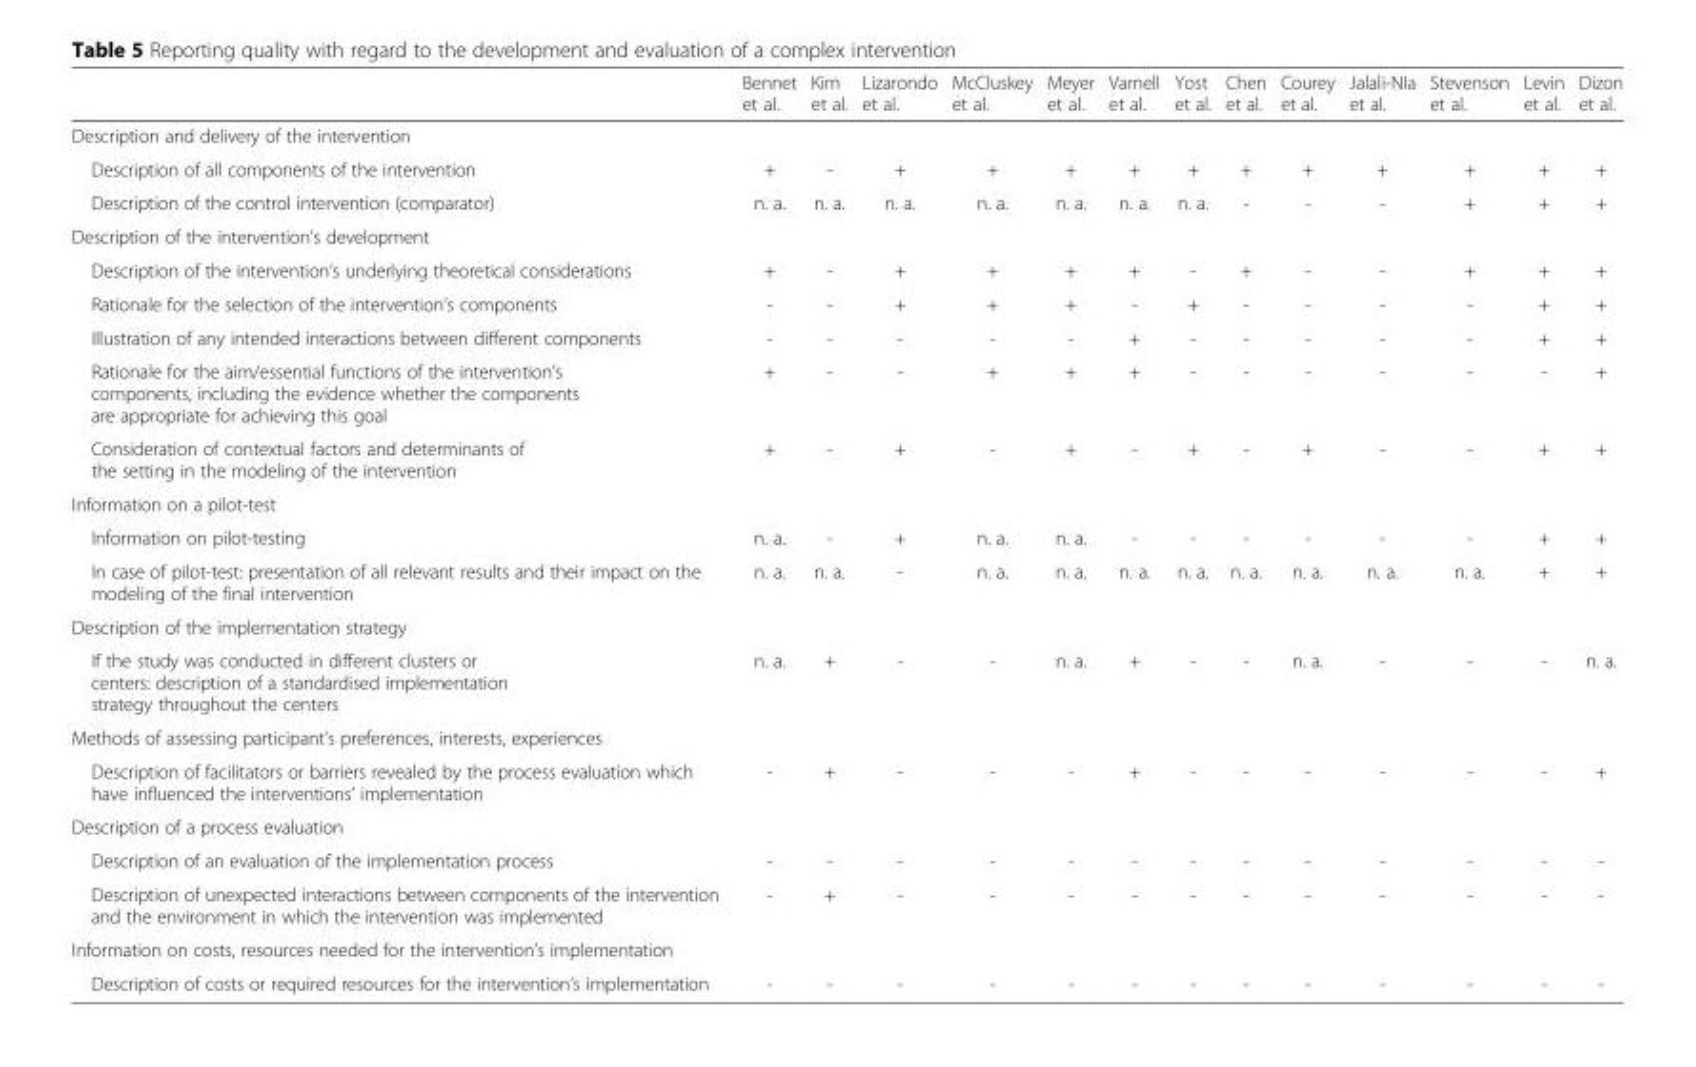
<table><thead><tr><td></td><td>Bennet et al.</td><td>Kim et al.</td><td>Lizarondo et al.</td><td>McCluskey et al.</td><td>Meyer et al.</td><td>Varnell et al.</td><td>Yost et al.</td><td>Chen et al.</td><td>Courey et al.</td><td>Jalali-NIa et al.</td><td>Stevenson et al.</td><td>Levin et al.</td><td>Dizon et al.</td></tr></thead><tbody><tr><td colspan="14">Description and delivery of the intervention</td></tr><tr><td>Description of all components of the intervention</td><td>+</td><td>-</td><td>+</td><td>+</td><td>+</td><td>+</td><td>+</td><td>+</td><td>+</td><td>+</td><td>+</td><td>+</td><td>+</td></tr><tr><td>Description of the control intervention (comparator)</td><td>n. a.</td><td>n. a.</td><td>n. a.</td><td>n. a.</td><td>n. a.</td><td>n. a.</td><td>n. a.</td><td>-</td><td>-</td><td>-</td><td>+</td><td>+</td><td>+</td></tr><tr><td colspan="14">Description of the intervention’s development</td></tr><tr><td>Description of the intervention’s underlying theoretical considerations</td><td>+</td><td>-</td><td>+</td><td>+</td><td>+</td><td>+</td><td>-</td><td>+</td><td>-</td><td>-</td><td>+</td><td>+</td><td>+</td></tr><tr><td>Rationale for the selection of the intervention’s components</td><td>-</td><td>-</td><td>+</td><td>+</td><td>+</td><td>-</td><td>+</td><td>-</td><td>-</td><td>-</td><td>-</td><td>+</td><td>+</td></tr><tr><td>Illustration of any intended interactions between different components</td><td>-</td><td>-</td><td>-</td><td>-</td><td>-</td><td>+</td><td>-</td><td>-</td><td>-</td><td>-</td><td>-</td><td>+</td><td>+</td></tr><tr><td>Rationale for the aim/essential functions of the intervention’s components, including the evidence whether the components are appropriate for achieving this goal</td><td>+</td><td>-</td><td>-</td><td>+</td><td>+</td><td>+</td><td>-</td><td>-</td><td>-</td><td>-</td><td>-</td><td>-</td><td>+</td></tr><tr><td>Consideration of contextual factors and determinants of the setting in the modeling of the intervention</td><td>+</td><td>-</td><td>+</td><td>-</td><td>+</td><td>-</td><td>+</td><td>-</td><td>+</td><td>-</td><td>-</td><td>+</td><td>+</td></tr><tr><td colspan="14">Information on a pilot-test</td></tr><tr><td>Information on pilot-testing</td><td>n. a.</td><td>-</td><td>+</td><td>n. a.</td><td>n. a.</td><td>-</td><td>-</td><td>-</td><td>-</td><td>-</td><td>-</td><td>+</td><td>+</td></tr><tr><td>In case of pilot-test: presentation of all relevant results and their impact on the modeling of the final intervention</td><td>n. a.</td><td>n. a.</td><td>-</td><td>n. a.</td><td>n. a.</td><td>n. a.</td><td>n. a.</td><td>n. a.</td><td>n. a.</td><td>n. a.</td><td>n. a.</td><td>+</td><td>+</td></tr><tr><td colspan="14">Description of the implementation strategy</td></tr><tr><td>If the study was conducted in different clusters or centers: description of a standardised implementation strategy throughout the centers</td><td>n. a.</td><td>+</td><td>-</td><td>-</td><td>n. a.</td><td>+</td><td>-</td><td>-</td><td>n. a.</td><td>-</td><td>-</td><td>-</td><td>n. a.</td></tr><tr><td colspan="14">Methods of assessing participant’s preferences, interests, experiences</td></tr><tr><td>Description of facilitators or barriers revealed by the process evaluation which have influenced the interventions’ implementation</td><td>-</td><td>+</td><td>-</td><td>-</td><td>-</td><td>+</td><td>-</td><td>-</td><td>-</td><td>-</td><td>-</td><td>-</td><td>+</td></tr><tr><td colspan="14">Description of a process evaluation</td></tr><tr><td>Description of an evaluation of the implementation process</td><td>-</td><td>-</td><td>-</td><td>-</td><td>-</td><td>-</td><td>-</td><td>-</td><td>-</td><td>-</td><td>-</td><td>-</td><td>-</td></tr><tr><td>Description of unexpected interactions between components of the intervention and the environment in which the intervention was implemented</td><td>-</td><td>+</td><td>-</td><td>-</td><td>-</td><td>-</td><td>-</td><td>-</td><td>-</td><td>-</td><td>-</td><td>-</td><td>-</td></tr><tr><td colspan="14">Information on costs, resources needed for the intervention’s implementation</td></tr><tr><td>Description of costs or required resources for the intervention’s implementation</td><td>-</td><td>-</td><td>-</td><td>-</td><td>-</td><td>-</td><td>-</td><td>-</td><td>-</td><td>-</td><td>-</td><td>-</td><td>-</td></tr></tbody></table>